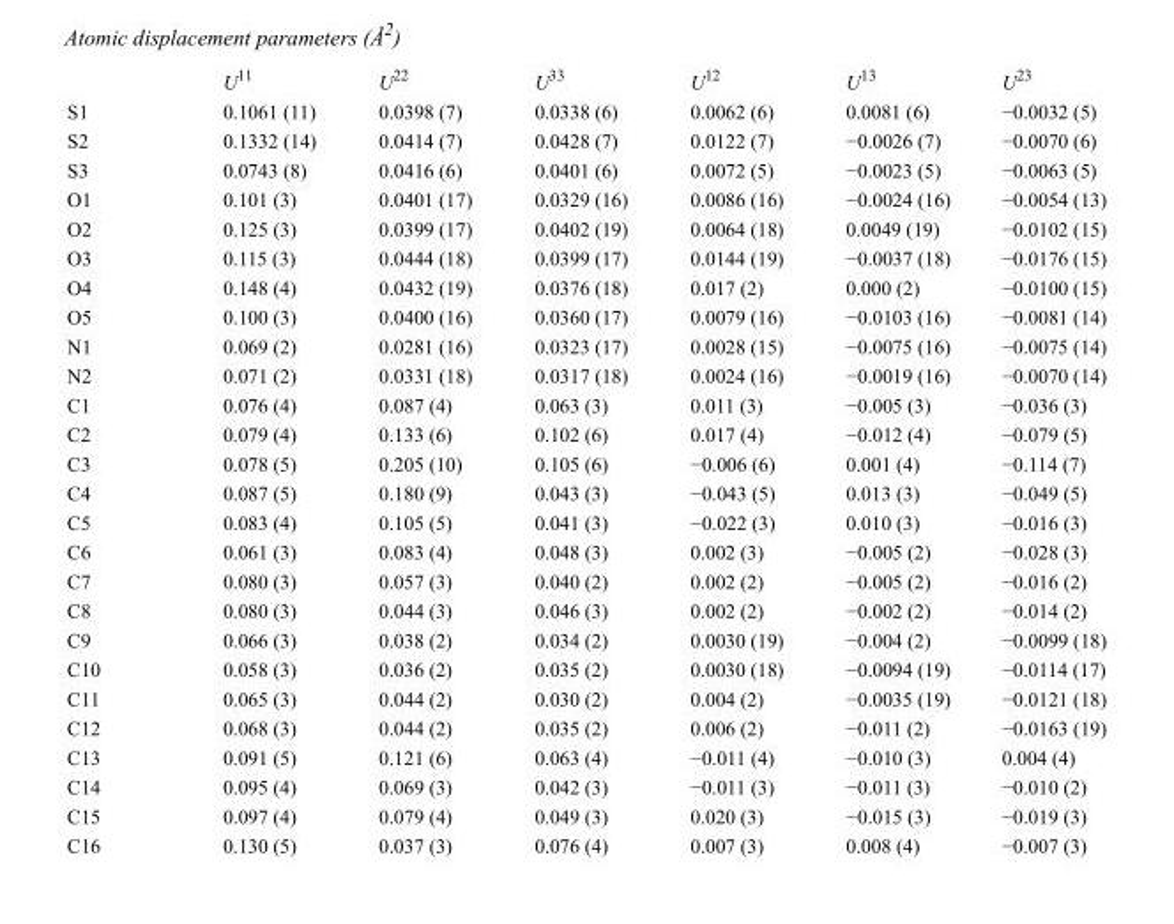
<table><thead><tr><td></td><td>U<sup>11</sup></td><td>U<sup>22</sup></td><td>U<sup>33</sup></td><td>U<sup>12</sup></td><td>U<sup>13</sup></td><td>U<sup>23</sup></td></tr></thead><tbody><tr><td>S1</td><td>0.1061 (11)</td><td>0.0398 (7)</td><td>0.0338 (6)</td><td>0.0062 (6)</td><td>0.0081 (6)</td><td>−0.0032 (5)</td></tr><tr><td>S2</td><td>0.1332 (14)</td><td>0.0414 (7)</td><td>0.0428 (7)</td><td>0.0122 (7)</td><td>−0.0026 (7)</td><td>−0.0070 (6)</td></tr><tr><td>S3</td><td>0.0743 (8)</td><td>0.0416 (6)</td><td>0.0401 (6)</td><td>0.0072 (5)</td><td>−0.0023 (5)</td><td>−0.0063 (5)</td></tr><tr><td>O1</td><td>0.101 (3)</td><td>0.0401 (17)</td><td>0.0329 (16)</td><td>0.0086 (16)</td><td>−0.0024 (16)</td><td>−0.0054 (13)</td></tr><tr><td>O2</td><td>0.125 (3)</td><td>0.0399 (17)</td><td>0.0402 (19)</td><td>0.0064 (18)</td><td>0.0049 (19)</td><td>−0.0102 (15)</td></tr><tr><td>O3</td><td>0.115 (3)</td><td>0.0444 (18)</td><td>0.0399 (17)</td><td>0.0144 (19)</td><td>−0.0037 (18)</td><td>−0.0176 (15)</td></tr><tr><td>O4</td><td>0.148 (4)</td><td>0.0432 (19)</td><td>0.0376 (18)</td><td>0.017 (2)</td><td>0.000 (2)</td><td>−0.0100 (15)</td></tr><tr><td>O5</td><td>0.100 (3)</td><td>0.0400 (16)</td><td>0.0360 (17)</td><td>0.0079 (16)</td><td>−0.0103 (16)</td><td>−0.0081 (14)</td></tr><tr><td>N1</td><td>0.069 (2)</td><td>0.0281 (16)</td><td>0.0323 (17)</td><td>0.0028 (15)</td><td>−0.0075 (16)</td><td>−0.0075 (14)</td></tr><tr><td>N2</td><td>0.071 (2)</td><td>0.0331 (18)</td><td>0.0317 (18)</td><td>0.0024 (16)</td><td>−0.0019 (16)</td><td>−0.0070 (14)</td></tr><tr><td>C1</td><td>0.076 (4)</td><td>0.087 (4)</td><td>0.063 (3)</td><td>0.011 (3)</td><td>−0.005 (3)</td><td>−0.036 (3)</td></tr><tr><td>C2</td><td>0.079 (4)</td><td>0.133 (6)</td><td>0.102 (6)</td><td>0.017 (4)</td><td>−0.012 (4)</td><td>−0.079 (5)</td></tr><tr><td>C3</td><td>0.078 (5)</td><td>0.205 (10)</td><td>0.105 (6)</td><td>−0.006 (6)</td><td>0.001 (4)</td><td>−0.114 (7)</td></tr><tr><td>C4</td><td>0.087 (5)</td><td>0.180 (9)</td><td>0.043 (3)</td><td>−0.043 (5)</td><td>0.013 (3)</td><td>−0.049 (5)</td></tr><tr><td>C5</td><td>0.083 (4)</td><td>0.105 (5)</td><td>0.041 (3)</td><td>−0.022 (3)</td><td>0.010 (3)</td><td>−0.016 (3)</td></tr><tr><td>C6</td><td>0.061 (3)</td><td>0.083 (4)</td><td>0.048 (3)</td><td>0.002 (3)</td><td>−0.005 (2)</td><td>−0.028 (3)</td></tr><tr><td>C7</td><td>0.080 (3)</td><td>0.057 (3)</td><td>0.040 (2)</td><td>0.002 (2)</td><td>−0.005 (2)</td><td>−0.016 (2)</td></tr><tr><td>C8</td><td>0.080 (3)</td><td>0.044 (3)</td><td>0.046 (3)</td><td>0.002 (2)</td><td>−0.002 (2)</td><td>−0.014 (2)</td></tr><tr><td>C9</td><td>0.066 (3)</td><td>0.038 (2)</td><td>0.034 (2)</td><td>0.0030 (19)</td><td>−0.004 (2)</td><td>−0.0099 (18)</td></tr><tr><td>C10</td><td>0.058 (3)</td><td>0.036 (2)</td><td>0.035 (2)</td><td>0.0030 (18)</td><td>−0.0094 (19)</td><td>−0.0114 (17)</td></tr><tr><td>C11</td><td>0.065 (3)</td><td>0.044 (2)</td><td>0.030 (2)</td><td>0.004 (2)</td><td>−0.0035 (19)</td><td>−0.0121 (18)</td></tr><tr><td>C12</td><td>0.068 (3)</td><td>0.044 (2)</td><td>0.035 (2)</td><td>0.006 (2)</td><td>−0.011 (2)</td><td>−0.0163 (19)</td></tr><tr><td>C13</td><td>0.091 (5)</td><td>0.121 (6)</td><td>0.063 (4)</td><td>−0.011 (4)</td><td>−0.010 (3)</td><td>0.004 (4)</td></tr><tr><td>C14</td><td>0.095 (4)</td><td>0.069 (3)</td><td>0.042 (3)</td><td>−0.011 (3)</td><td>−0.011 (3)</td><td>−0.010 (2)</td></tr><tr><td>C15</td><td>0.097 (4)</td><td>0.079 (4)</td><td>0.049 (3)</td><td>0.020 (3)</td><td>−0.015 (3)</td><td>−0.019 (3)</td></tr><tr><td>C16</td><td>0.130 (5)</td><td>0.037 (3)</td><td>0.076 (4)</td><td>0.007 (3)</td><td>0.008 (4)</td><td>−0.007 (3)</td></tr></tbody></table>